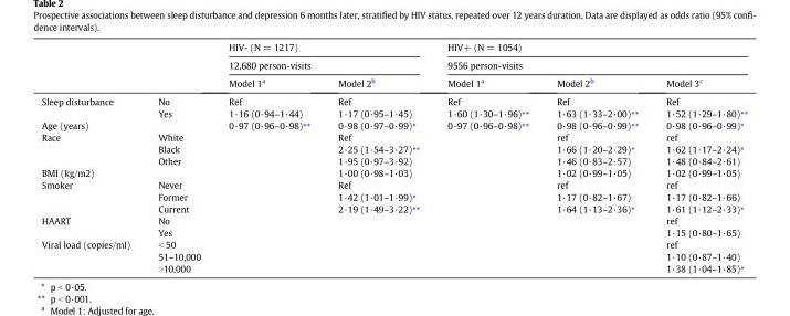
<table><thead><tr><td rowspan="3"></td><td rowspan="3"></td><td rowspan="2" colspan="2">HIV- (N = 1217) 12,680 person-visits</td><td rowspan="2" colspan="3">HIV+ (N = 1054) 9556 person-visits</td></tr><tr></tr><tr><td>Model 1<sup>a</sup></td><td>Model 2<sup>b</sup></td><td>Model 1<sup>a</sup></td><td>Model 2<sup>b</sup></td><td>Model 3<sup>c</sup></td></tr></thead><tbody><tr><td rowspan="2">Sleep disturbance</td><td>No</td><td>Ref</td><td>Ref</td><td>Ref</td><td>Ref</td><td>Ref</td></tr><tr><td>Yes</td><td>1·16 (0·94–1·44)</td><td>1·17 (0·95–1·45)</td><td>1·60 (1·30–1·96)⁎⁎</td><td>1·63 (1·33–2·00)⁎⁎</td><td>1·52 (1·29–1·80)⁎⁎</td></tr><tr><td>Age (years)</td><td></td><td>0·97 (0·96–0·98)⁎⁎</td><td>0·98 (0·97–0·99)⁎</td><td>0·97 (0·96–0·98)⁎⁎</td><td>0·98 (0·96–0·99)⁎⁎</td><td>0·98 (0·96–0·99)⁎</td></tr><tr><td rowspan="3">Race</td><td>White</td><td></td><td>Ref</td><td></td><td>ref</td><td>ref</td></tr><tr><td>Black</td><td></td><td>2·25 (1·54–3·27)⁎⁎</td><td></td><td>1·66 (1·20–2·29)⁎</td><td>1·62 (1·17–2·24)⁎</td></tr><tr><td>Other</td><td></td><td>1·95 (0·97–3·92)</td><td></td><td>1·46 (0·83–2·57)</td><td>1·48 (0·84–2·61)</td></tr><tr><td>BMI (kg/m2)</td><td></td><td></td><td>1·00 (0·98–1·03)</td><td></td><td>1·02 (0·99–1·05)</td><td>1·02 (0·99–1·05)</td></tr><tr><td rowspan="3">Smoker</td><td>Never</td><td></td><td>Ref</td><td></td><td>ref</td><td>ref</td></tr><tr><td>Former</td><td></td><td>1·42 (1·01–1·99)⁎</td><td></td><td>1·17 (0·82–1·67)</td><td>1·17 (0·82–1·66)</td></tr><tr><td>Current</td><td></td><td>2·19 (1·49–3·22)⁎⁎</td><td></td><td>1·64 (1·13–2·36)⁎</td><td>1·61 (1·12–2·33)⁎</td></tr><tr><td rowspan="2">HAART</td><td>No</td><td></td><td></td><td></td><td></td><td>ref</td></tr><tr><td>Yes</td><td></td><td></td><td></td><td></td><td>1·15 (0·80–1·65)</td></tr><tr><td rowspan="3">Viral load (copies/ml)</td><td>&lt; 50</td><td></td><td></td><td></td><td></td><td>ref</td></tr><tr><td>51–10,000</td><td></td><td></td><td></td><td></td><td>1·10 (0·87–1·40)</td></tr><tr><td>&gt;10,000</td><td></td><td></td><td></td><td></td><td>1·38 (1·04–1·85)⁎</td></tr></tbody></table>